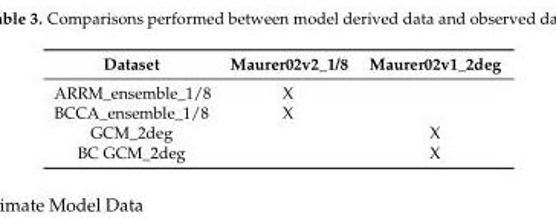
<table><thead><tr><td>Dataset</td><td>Maurer02v2_1/8</td><td>Maurer02v1_2deg</td></tr></thead><tbody><tr><td>ARRM_ensemble_1/8</td><td>X</td><td></td></tr><tr><td>BCCA_ensemble_1/8</td><td>X</td><td></td></tr><tr><td>GCM_2deg</td><td></td><td>X</td></tr><tr><td>BC GCM_2deg</td><td></td><td>X</td></tr></tbody></table>